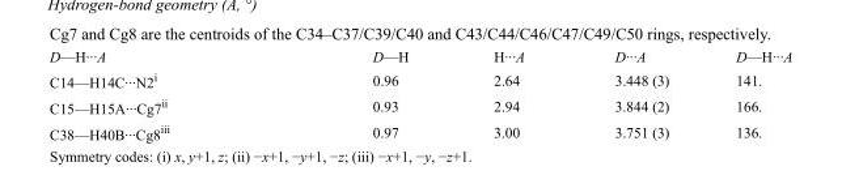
<table><tbody><tr><td>D—H···A</td><td>D—H</td><td>H···A</td><td>D···A</td><td>D—H···A</td></tr><tr><td>C14—H14C···N2<sup>i</sup></td><td>0.96</td><td>2.64</td><td>3.448 (3)</td><td>141.</td></tr><tr><td>C15—H15A···Cg7<sup>ii</sup></td><td>0.93</td><td>2.94</td><td>3.844 (2)</td><td>166.</td></tr><tr><td>C38—H40B···Cg8<sup>iii</sup></td><td>0.97</td><td>3.00</td><td>3.751 (3)</td><td>136.</td></tr></tbody></table>